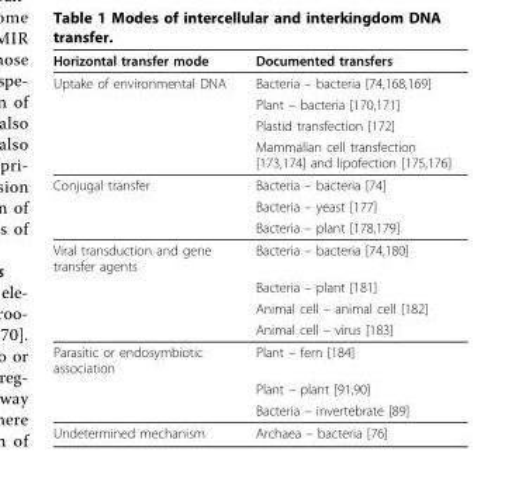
<table><thead><tr><td>Horizontal transfer mode</td><td>Documented transfers</td></tr></thead><tbody><tr><td rowspan="4">Uptake of environmental DNA</td><td>Bacteria – bacteria [74,168,169]</td></tr><tr><td>Plant – bacteria [170,171]</td></tr><tr><td>Plastid transfection [172]</td></tr><tr><td>Mammalian cell transfection [173,174] and lipofection [175,176]</td></tr><tr><td rowspan="3">Conjugal transfer</td><td>Bacteria – bacteria [74]</td></tr><tr><td>Bacteria – yeast [177]</td></tr><tr><td>Bacteria – plant [178,179]</td></tr><tr><td rowspan="4">Viral transduction and gene transfer agents</td><td>Bacteria – bacteria [74,180]</td></tr><tr><td>Bacteria – plant [181]</td></tr><tr><td>Animal cell – animal cell [182]</td></tr><tr><td>Animal cell – virus [183]</td></tr><tr><td rowspan="3">Parasitic or endosymbiotic association</td><td>Plant – fern [184]</td></tr><tr><td>Plant – plant [91,90]</td></tr><tr><td>Bacteria – invertebrate [89]</td></tr><tr><td>Undetermined mechanism</td><td>Archaea – bacteria [76]</td></tr></tbody></table>